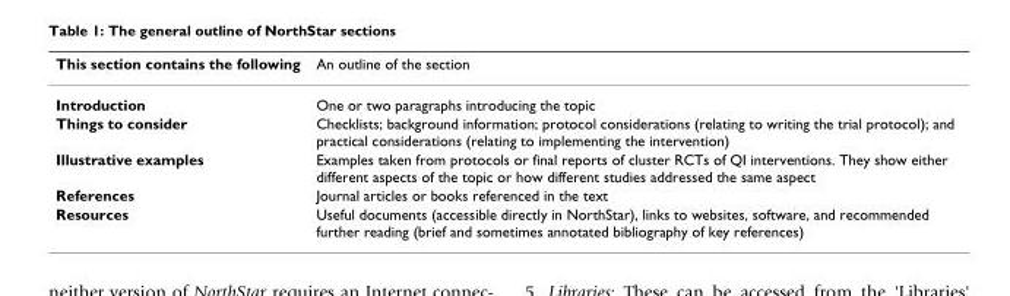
<table><thead><tr><td>This section contains the following</td><td>An outline of the section</td></tr></thead><tbody><tr><td>Introduction</td><td>One or two paragraphs introducing the topic</td></tr><tr><td>Things to consider</td><td>Checklists; background information; protocol considerations (relating to writing the trial protocol); and practical considerations (relating to implementing the intervention)</td></tr><tr><td>Illustrative examples</td><td>Examples taken from protocols or final reports of cluster RCTs of QI interventions. They show either different aspects of the topic or how different studies addressed the same aspect</td></tr><tr><td>References</td><td>Journal articles or books referenced in the text</td></tr><tr><td>Resources</td><td>Useful documents (accessible directly in NorthStar), links to websites, software, and recommended further reading (brief and sometimes annotated bibliography of key references)</td></tr></tbody></table>